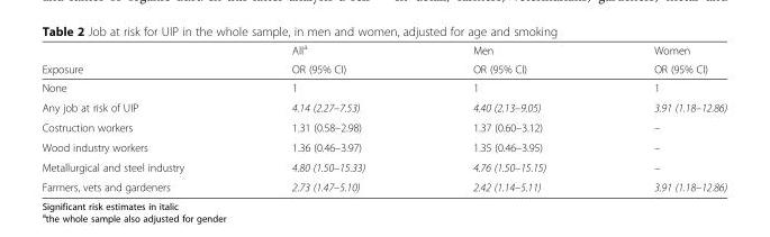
<table><thead><tr><td rowspan="2">Exposure</td><td rowspan="2">All<sup>a</sup> OR (95% CI)</td><td rowspan="2">Men OR (95% CI)</td><td rowspan="2">Women OR (95% CI)</td></tr><tr></tr></thead><tbody><tr><td>None</td><td>1</td><td>1</td><td>1</td></tr><tr><td>Any job at risk of UIP</td><td>4.14 (2.27–7.53)</td><td>4.40 (2.13–9.05)</td><td>3.91 (1.18–12.86)</td></tr><tr><td>Costruction workers</td><td>1.31 (0.58–2.98)</td><td>1.37 (0.60–3.12)</td><td>–</td></tr><tr><td>Wood industry workers</td><td>1.36 (0.46–3.97)</td><td>1.35 (0.46–3.95)</td><td>–</td></tr><tr><td>Metallurgical and steel industry</td><td>4.80 (1.50–15.33)</td><td>4.76 (1.50–15.15)</td><td>–</td></tr><tr><td>Farmers, vets and gardeners</td><td>2.73 (1.47–5.10)</td><td>2.42 (1.14–5.11)</td><td>3.91 (1.18–12.86)</td></tr></tbody></table>